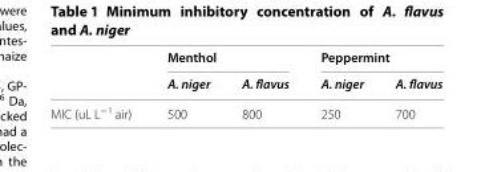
<table><thead><tr><td rowspan="2"></td><td colspan="2">Menthol</td><td colspan="2">Peppermint</td></tr><tr><td>A. niger</td><td>A. flavus</td><td>A. niger</td><td>A. flavus</td></tr></thead><tbody><tr><td>MIC (uL L<sup>−1</sup> air)</td><td>500</td><td>800</td><td>250</td><td>700</td></tr></tbody></table>